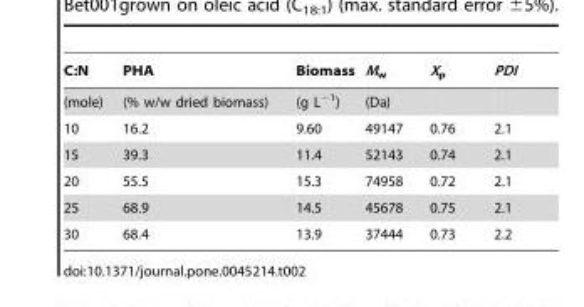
<table><thead><tr><td>C:N</td><td>PHA</td><td>Biomass</td><td>M<sub>w</sub></td><td>X<sub>p</sub></td><td>PDI</td></tr></thead><tbody><tr><td>(mole)</td><td>(% w/w dried biomass)</td><td>(g L<sup>−1</sup>)</td><td>(Da)</td><td></td><td></td></tr><tr><td>10</td><td>16.2</td><td>9.60</td><td>49147</td><td>0.76</td><td>2.1</td></tr><tr><td>15</td><td>39.3</td><td>11.4</td><td>52143</td><td>0.74</td><td>2.1</td></tr><tr><td>20</td><td>55.5</td><td>15.3</td><td>74958</td><td>0.72</td><td>2.1</td></tr><tr><td>25</td><td>68.9</td><td>14.5</td><td>45678</td><td>0.75</td><td>2.1</td></tr><tr><td>30</td><td>68.4</td><td>13.9</td><td>37444</td><td>0.73</td><td>2.2</td></tr></tbody></table>